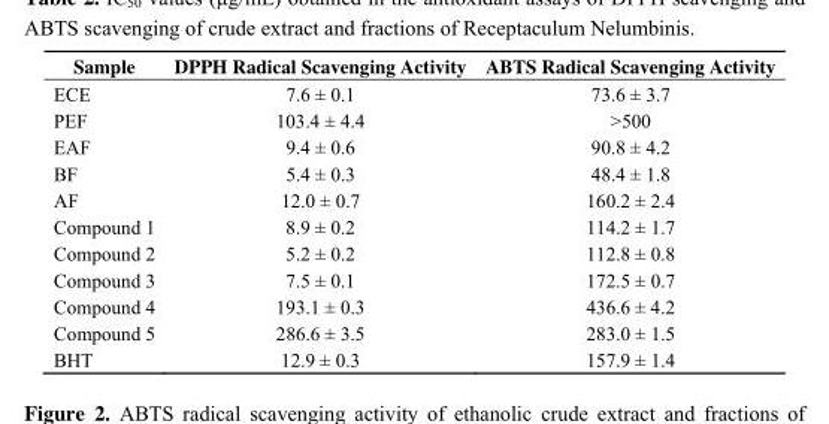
<table><thead><tr><td>Sample</td><td>DPPH Radical Scavenging Activity</td><td>ABTS Radical Scavenging Activity</td></tr></thead><tbody><tr><td>ECE</td><td>7.6 ± 0.1</td><td>73.6 ± 3.7</td></tr><tr><td>PEF</td><td>103.4 ± 4.4</td><td>&gt;500</td></tr><tr><td>EAF</td><td>9.4 ± 0.6</td><td>90.8 ± 4.2</td></tr><tr><td>BF</td><td>5.4 ± 0.3</td><td>48.4 ± 1.8</td></tr><tr><td>AF</td><td>12.0 ± 0.7</td><td>160.2 ± 2.4</td></tr><tr><td>Compound 1</td><td>8.9 ± 0.2</td><td>114.2 ± 1.7</td></tr><tr><td>Compound 2</td><td>5.2 ± 0.2</td><td>112.8 ± 0.8</td></tr><tr><td>Compound 3</td><td>7.5 ± 0.1</td><td>172.5 ± 0.7</td></tr><tr><td>Compound 4</td><td>193.1 ± 0.3</td><td>436.6 ± 4.2</td></tr><tr><td>Compound 5</td><td>286.6 ± 3.5</td><td>283.0 ± 1.5</td></tr><tr><td>BHT</td><td>12.9 ± 0.3</td><td>157.9 ± 1.4</td></tr></tbody></table>